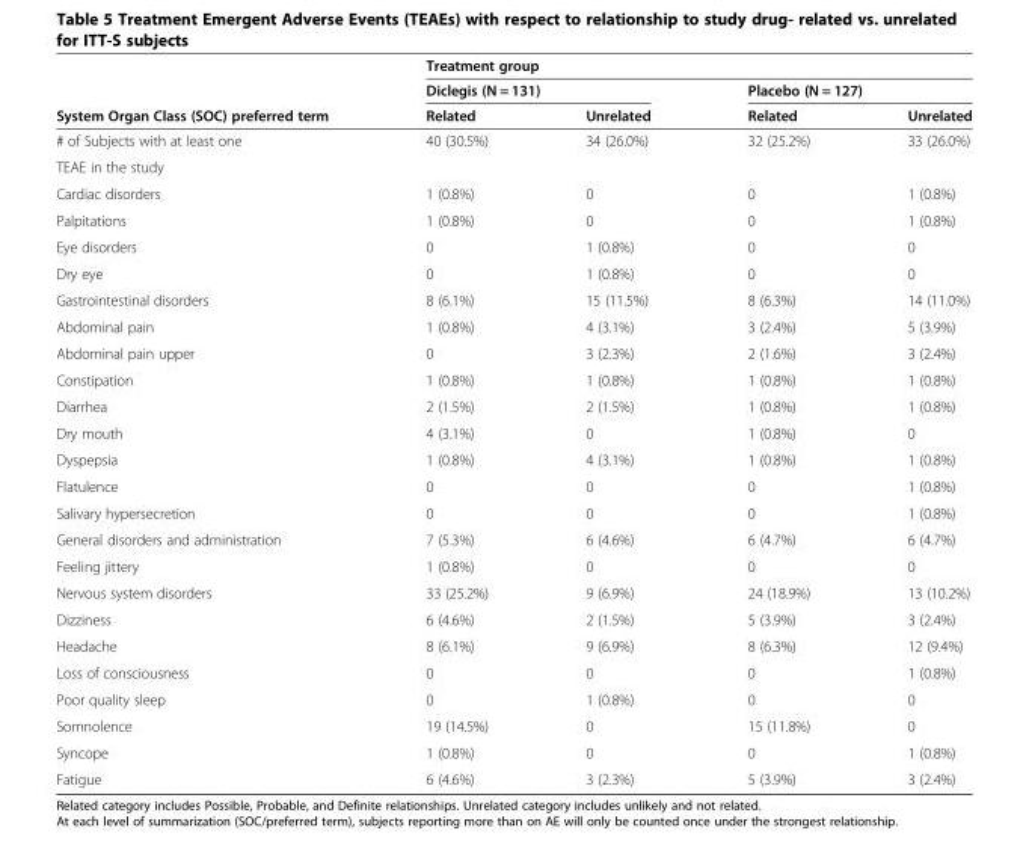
<table><thead><tr><td rowspan="3">System Organ Class (SOC) preferred term</td><td colspan="4">Treatment group</td></tr><tr><td colspan="2">Diclegis (N = 131)</td><td colspan="2">Placebo (N = 127)</td></tr><tr><td>Related</td><td>Unrelated</td><td>Related</td><td>Unrelated</td></tr></thead><tbody><tr><td># of Subjects with at least one</td><td>40 (30.5%)</td><td>34 (26.0%)</td><td>32 (25.2%)</td><td>33 (26.0%)</td></tr><tr><td colspan="5">TEAE in the study</td></tr><tr><td>Cardiac disorders</td><td>1 (0.8%)</td><td>0</td><td>0</td><td>1 (0.8%)</td></tr><tr><td>Palpitations</td><td>1 (0.8%)</td><td>0</td><td>0</td><td>1 (0.8%)</td></tr><tr><td>Eye disorders</td><td>0</td><td>1 (0.8%)</td><td>0</td><td>0</td></tr><tr><td>Dry eye</td><td>0</td><td>1 (0.8%)</td><td>0</td><td>0</td></tr><tr><td>Gastrointestinal disorders</td><td>8 (6.1%)</td><td>15 (11.5%)</td><td>8 (6.3%)</td><td>14 (11.0%)</td></tr><tr><td>Abdominal pain</td><td>1 (0.8%)</td><td>4 (3.1%)</td><td>3 (2.4%)</td><td>5 (3.9%)</td></tr><tr><td>Abdominal pain upper</td><td>0</td><td>3 (2.3%)</td><td>2 (1.6%)</td><td>3 (2.4%)</td></tr><tr><td>Constipation</td><td>1 (0.8%)</td><td>1 (0.8%)</td><td>1 (0.8%)</td><td>1 (0.8%)</td></tr><tr><td>Diarrhea</td><td>2 (1.5%)</td><td>2 (1.5%)</td><td>1 (0.8%)</td><td>1 (0.8%)</td></tr><tr><td>Dry mouth</td><td>4 (3.1%)</td><td>0</td><td>1 (0.8%)</td><td>0</td></tr><tr><td>Dyspepsia</td><td>1 (0.8%)</td><td>4 (3.1%)</td><td>1 (0.8%)</td><td>1 (0.8%)</td></tr><tr><td>Flatulence</td><td>0</td><td>0</td><td>0</td><td>1 (0.8%)</td></tr><tr><td>Salivary hypersecretion</td><td>0</td><td>0</td><td>0</td><td>1 (0.8%)</td></tr><tr><td>General disorders and administration</td><td>7 (5.3%)</td><td>6 (4.6%)</td><td>6 (4.7%)</td><td>6 (4.7%)</td></tr><tr><td>Feeling jittery</td><td>1 (0.8%)</td><td>0</td><td>0</td><td>0</td></tr><tr><td>Nervous system disorders</td><td>33 (25.2%)</td><td>9 (6.9%)</td><td>24 (18.9%)</td><td>13 (10.2%)</td></tr><tr><td>Dizziness</td><td>6 (4.6%)</td><td>2 (1.5%)</td><td>5 (3.9%)</td><td>3 (2.4%)</td></tr><tr><td>Headache</td><td>8 (6.1%)</td><td>9 (6.9%)</td><td>8 (6.3%)</td><td>12 (9.4%)</td></tr><tr><td>Loss of consciousness</td><td>0</td><td>0</td><td>0</td><td>1 (0.8%)</td></tr><tr><td>Poor quality sleep</td><td>0</td><td>1 (0.8%)</td><td>0</td><td>0</td></tr><tr><td>Somnolence</td><td>19 (14.5%)</td><td>0</td><td>15 (11.8%)</td><td>0</td></tr><tr><td>Syncope</td><td>1 (0.8%)</td><td>0</td><td>0</td><td>1 (0.8%)</td></tr><tr><td>Fatigue</td><td>6 (4.6%)</td><td>3 (2.3%)</td><td>5 (3.9%)</td><td>3 (2.4%)</td></tr></tbody></table>